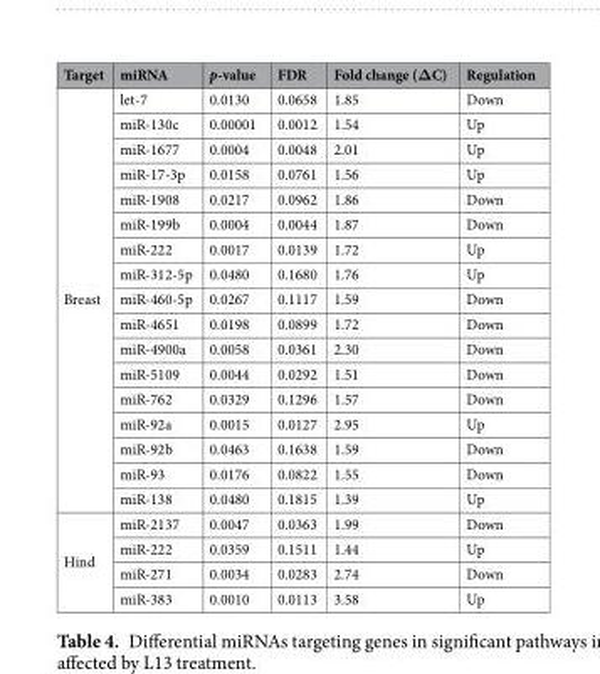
<table><thead><tr><td>Target</td><td>miRNA</td><td>p-value</td><td>FDR</td><td>Fold change (ΔC)</td><td>Regulation</td></tr></thead><tbody><tr><td rowspan="17">Breast</td><td>let-7</td><td>0.0130</td><td>0.0658</td><td>1.85</td><td>Down</td></tr><tr><td>miR-130c</td><td>0.00001</td><td>0.0012</td><td>1.54</td><td>Up</td></tr><tr><td>miR-1677</td><td>0.0004</td><td>0.0048</td><td>2.01</td><td>Up</td></tr><tr><td>miR-17-3p</td><td>0.0158</td><td>0.0761</td><td>1.56</td><td>Up</td></tr><tr><td>miR-1908</td><td>0.0217</td><td>0.0962</td><td>1.86</td><td>Down</td></tr><tr><td>miR-199b</td><td>0.0004</td><td>0.0044</td><td>1.87</td><td>Down</td></tr><tr><td>miR-222</td><td>0.0017</td><td>0.0139</td><td>1.72</td><td>Up</td></tr><tr><td>miR-312-5p</td><td>0.0480</td><td>0.1680</td><td>1.76</td><td>Up</td></tr><tr><td>miR-460-5p</td><td>0.0267</td><td>0.1117</td><td>1.59</td><td>Down</td></tr><tr><td>miR-4651</td><td>0.0198</td><td>0.0899</td><td>1.72</td><td>Down</td></tr><tr><td>miR-4900a</td><td>0.0058</td><td>0.0361</td><td>2.30</td><td>Down</td></tr><tr><td>miR-5109</td><td>0.0044</td><td>0.0292</td><td>1.51</td><td>Down</td></tr><tr><td>miR-762</td><td>0.0329</td><td>0.1296</td><td>1.57</td><td>Down</td></tr><tr><td>miR-92a</td><td>0.0015</td><td>0.0127</td><td>2.95</td><td>Up</td></tr><tr><td>miR-92b</td><td>0.0463</td><td>0.1638</td><td>1.59</td><td>Down</td></tr><tr><td>miR-93</td><td>0.0176</td><td>0.0822</td><td>1.55</td><td>Down</td></tr><tr><td>miR-138</td><td>0.0480</td><td>0.1815</td><td>1.39</td><td>Up</td></tr><tr><td rowspan="4">Hind</td><td>miR-2137</td><td>0.0047</td><td>0.0363</td><td>1.99</td><td>Down</td></tr><tr><td>miR-222</td><td>0.0359</td><td>0.1511</td><td>1.44</td><td>Up</td></tr><tr><td>miR-271</td><td>0.0034</td><td>0.0283</td><td>2.74</td><td>Down</td></tr><tr><td>miR-383</td><td>0.0010</td><td>0.0113</td><td>3.58</td><td>Up</td></tr></tbody></table>